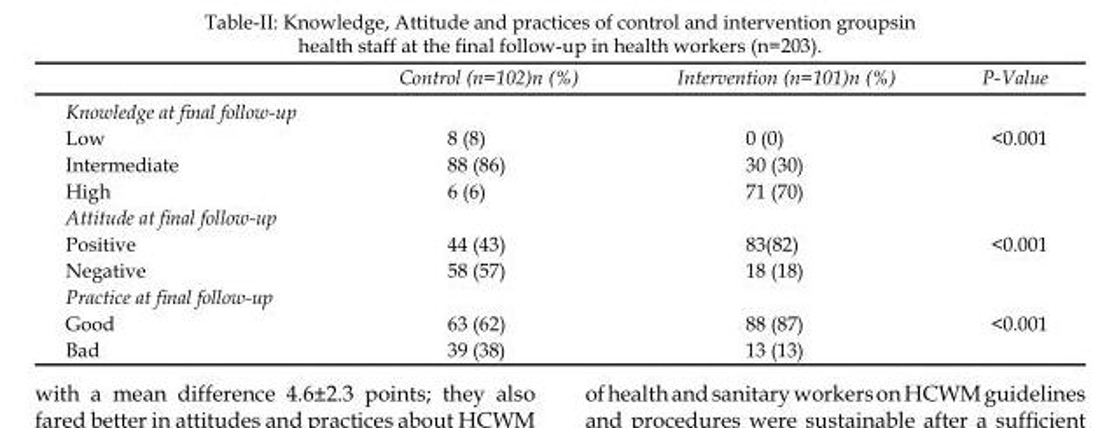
<table><thead><tr><td></td><td>Control (n=102)n (%)</td><td>Intervention (n=101)n (%)</td><td>P-Value</td></tr></thead><tbody><tr><td colspan="4">Knowledge at final follow-up</td></tr><tr><td>Low</td><td>8 (8)</td><td>0 (0)</td><td>&lt;0.001</td></tr><tr><td>Intermediate</td><td>88 (86)</td><td>30 (30)</td><td></td></tr><tr><td>High</td><td>6 (6)</td><td>71 (70)</td><td></td></tr><tr><td colspan="4">Attitude at final follow-up</td></tr><tr><td>Positive</td><td>44 (43)</td><td>83(82)</td><td>&lt;0.001</td></tr><tr><td>Negative</td><td>58 (57)</td><td>18 (18)</td><td></td></tr><tr><td colspan="4">Practice at final follow-up</td></tr><tr><td>Good</td><td>63 (62)</td><td>88 (87)</td><td>&lt;0.001</td></tr><tr><td>Bad</td><td>39 (38)</td><td>13 (13)</td><td></td></tr></tbody></table>